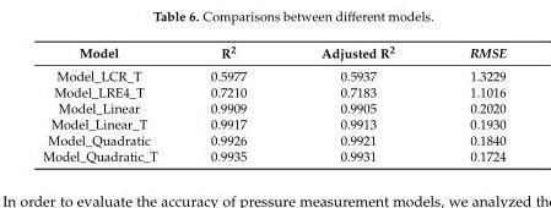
<table><thead><tr><td>Model</td><td>R<sup>2</sup></td><td>Adjusted R<sup>2</sup></td><td>RMSE</td></tr></thead><tbody><tr><td>Model_LCR_T</td><td>0.5977</td><td>0.5937</td><td>1.3229</td></tr><tr><td>Model_LRE4_T</td><td>0.7210</td><td>0.7183</td><td>1.1016</td></tr><tr><td>Model_Linear</td><td>0.9909</td><td>0.9905</td><td>0.2020</td></tr><tr><td>Model_Linear_T</td><td>0.9917</td><td>0.9913</td><td>0.1930</td></tr><tr><td>Model_Quadratic</td><td>0.9926</td><td>0.9921</td><td>0.1840</td></tr><tr><td>Model_Quadratic_T</td><td>0.9935</td><td>0.9931</td><td>0.1724</td></tr></tbody></table>